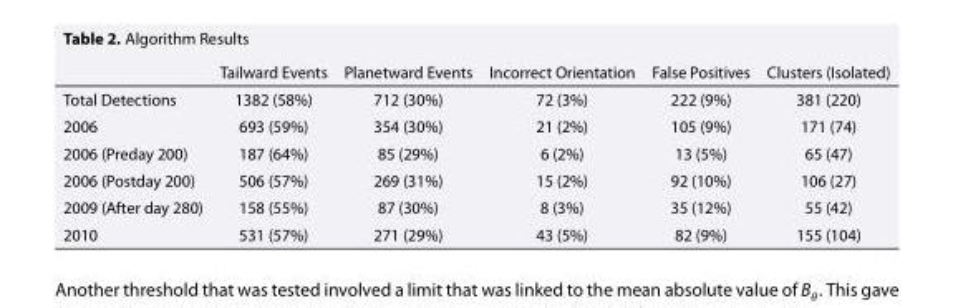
<table><thead><tr><td></td><td>Tailward Events</td><td>Planetward Events</td><td>Incorrect Orientation</td><td>False Positives</td><td>Clusters (Isolated)</td></tr></thead><tbody><tr><td>Total Detections</td><td>1382 (58%)</td><td>712 (30%)</td><td>72 (3%)</td><td>222 (9%)</td><td>381 (220)</td></tr><tr><td>2006</td><td>693 (59%)</td><td>354 (30%)</td><td>21 (2%)</td><td>105 (9%)</td><td>171 (74)</td></tr><tr><td>2006 (Preday 200)</td><td>187 (64%)</td><td>85 (29%)</td><td>6 (2%)</td><td>13 (5%)</td><td>65 (47)</td></tr><tr><td>2006 (Postday 200)</td><td>506 (57%)</td><td>269 (31%)</td><td>15 (2%)</td><td>92 (10%)</td><td>106 (27)</td></tr><tr><td>2009 (After day 280)</td><td>158 (55%)</td><td>87 (30%)</td><td>8 (3%)</td><td>35 (12%)</td><td>55 (42)</td></tr><tr><td>2010</td><td>531 (57%)</td><td>271 (29%)</td><td>43 (5%)</td><td>82 (9%)</td><td>155 (104)</td></tr></tbody></table>